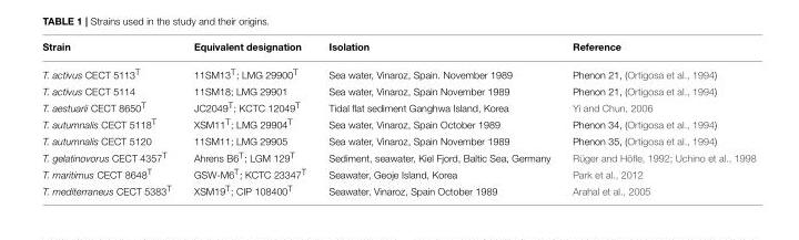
<table><thead><tr><td>Strain</td><td>Equivalent designation</td><td>Isolation</td><td>Reference</td></tr></thead><tbody><tr><td>T. activus CECT 5113<sup>T</sup></td><td>11SM13<sup>T</sup>; LMG 29900<sup>T</sup></td><td>Sea water, Vinaroz, Spain. November 1989</td><td>Phenon 21, (Ortigosa et al., 1994)</td></tr><tr><td>T. activus CECT 5114</td><td>11SM18; LMG 29901</td><td>Sea water, Vinaroz, Spain November 1989</td><td>Phenon 21, (Ortigosa et al., 1994)</td></tr><tr><td>T. aestuarii CECT 8650<sup>T</sup></td><td>JC2049<sup>T</sup>; KCTC 12049<sup>T</sup></td><td>Tidal flat sediment Ganghwa Island, Korea</td><td>Yi and Chun, 2006</td></tr><tr><td>T. autumnalis CECT 5118<sup>T</sup></td><td>XSM11<sup>T</sup>; LMG 29904<sup>T</sup></td><td>Sea water, Vinaroz, Spain October 1989</td><td>Phenon 34, (Ortigosa et al., 1994)</td></tr><tr><td>T. autumnalis CECT 5120</td><td>11SM11; LMG 29905</td><td>Sea water, Vinaroz, Spain November 1989</td><td>Phenon 35, (Ortigosa et al., 1994)</td></tr><tr><td>T. gelatinovorus CECT 4357<sup>T</sup></td><td>Ahrens B6<sup>T</sup>; LGM 129<sup>T</sup></td><td>Sediment, seawater, Kiel Fjord, Baltic Sea, Germany</td><td>Rüger and Höfle, 1992; Uchino et al., 1998</td></tr><tr><td>T. maritimus CECT 8648<sup>T</sup></td><td>GSW-M6<sup>T</sup>; KCTC 23347<sup>T</sup></td><td>Seawater, Geoje Island, Korea</td><td>Park et al., 2012</td></tr><tr><td>T. mediterraneus CECT 5383<sup>T</sup></td><td>XSM19<sup>T</sup>; CIP 108400<sup>T</sup></td><td>Seawater, Vinaroz, Spain October 1989</td><td>Arahal et al., 2005</td></tr></tbody></table>